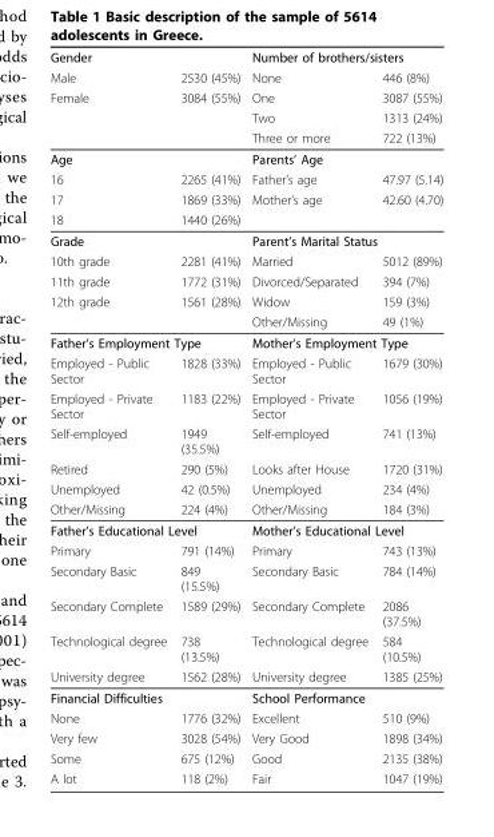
<table><thead><tr><td colspan="2">Gender</td><td colspan="2">Number of brothers/sisters</td></tr><tr><td rowspan="4">Male Female</td><td rowspan="4">2530 (45%) 3084 (55%)</td><td rowspan="4">None One Two Three or more</td><td rowspan="4">446 (8%) 3087 (55%) 1313 (24%) 722 (13%)</td></tr><tr></tr><tr></tr><tr></tr></thead><tbody><tr><td colspan="2">Age</td><td colspan="2">Parents’ Age</td></tr><tr><td>16</td><td>2265 (41%)</td><td>Father’s age</td><td>47.97 (5.14)</td></tr><tr><td>17</td><td>1869 (33%)</td><td>Mother’s age</td><td>42.60 (4.70)</td></tr><tr><td>18</td><td>1440 (26%)</td><td></td><td></td></tr><tr><td colspan="2">Grade</td><td colspan="2">Parent’s Marital Status</td></tr><tr><td>10th grade</td><td>2281 (41%)</td><td>Married</td><td>5012 (89%)</td></tr><tr><td>11th grade</td><td>1772 (31%)</td><td>Divorced/Separated</td><td>394 (7%)</td></tr><tr><td rowspan="2">12th grade</td><td>1561 (28%)</td><td>Widow</td><td>159 (3%)</td></tr><tr><td></td><td>Other/Missing</td><td>49 (1%)</td></tr><tr><td colspan="2">Father’s Employment Type</td><td colspan="2">Mother’s Employment Type</td></tr><tr><td>Employed - Public Sector</td><td>1828 (33%)</td><td>Employed - Public Sector</td><td>1679 (30%)</td></tr><tr><td>Employed - Private Sector</td><td>1183 (22%)</td><td>Employed - Private Sector</td><td>1056 (19%)</td></tr><tr><td>Self-employed</td><td>1949 (35.5%)</td><td>Self-employed</td><td>741 (13%)</td></tr><tr><td>Retired</td><td>290 (5%)</td><td>Looks after House</td><td>1720 (31%)</td></tr><tr><td>Unemployed</td><td>42 (0.5%)</td><td>Unemployed</td><td>234 (4%)</td></tr><tr><td>Other/Missing</td><td>224 (4%)</td><td>Other/Missing</td><td>184 (3%)</td></tr><tr><td colspan="2">Father’s Educational Level</td><td colspan="2">Mother’s Educational Level</td></tr><tr><td>Primary</td><td>791 (14%)</td><td>Primary</td><td>743 (13%)</td></tr><tr><td>Secondary Basic</td><td>849 (15.5%)</td><td>Secondary Basic</td><td>784 (14%)</td></tr><tr><td>Secondary Complete</td><td>1589 (29%)</td><td>Secondary Complete</td><td>2086 (37.5%)</td></tr><tr><td>Technological degree</td><td>738 (13.5%)</td><td>Technological degree</td><td>584 (10.5%)</td></tr><tr><td>University degree</td><td>1562 (28%)</td><td>University degree</td><td>1385 (25%)</td></tr><tr><td colspan="2">Financial Difficulties</td><td colspan="2">School Performance</td></tr><tr><td>None</td><td>1776 (32%)</td><td>Excellent</td><td>510 (9%)</td></tr><tr><td>Very few</td><td>3028 (54%)</td><td>Very Good</td><td>1898 (34%)</td></tr><tr><td>Some</td><td>675 (12%)</td><td>Good</td><td>2135 (38%)</td></tr><tr><td>A lot</td><td>118 (2%)</td><td>Fair</td><td>1047 (19%)</td></tr></tbody></table>